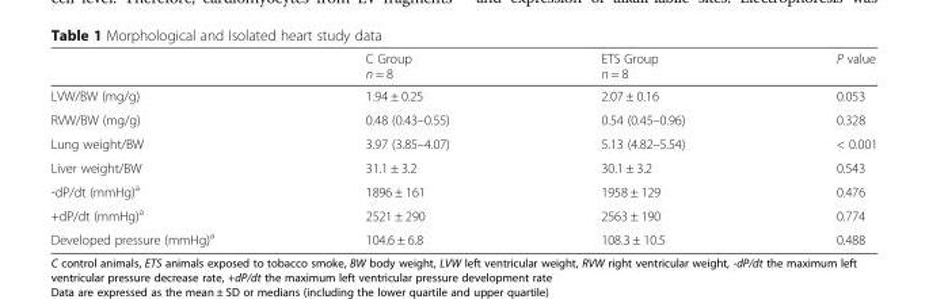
<table><thead><tr><td></td><td>C Group n = 8</td><td>ETS Group n = 8</td><td>P value</td></tr></thead><tbody><tr><td>LVW/BW (mg/g)</td><td>1.94 ± 0.25</td><td>2.07 ± 0.16</td><td>0.053</td></tr><tr><td>RVW/BW (mg/g)</td><td>0.48 (0.43–0.55)</td><td>0.54 (0.45–0.96)</td><td>0.328</td></tr><tr><td>Lung weight/BW</td><td>3.97 (3.85–4.07)</td><td>5.13 (4.82–5.54)</td><td>&lt; 0.001</td></tr><tr><td>Liver weight/BW</td><td>31.1 ± 3.2</td><td>30.1 ± 3.2</td><td>0.543</td></tr><tr><td>-dP/dt (mmHg)<sup>a</sup></td><td>1896 ± 161</td><td>1958 ± 129</td><td>0.476</td></tr><tr><td>+dP/dt (mmHg)<sup>a</sup></td><td>2521 ± 290</td><td>2563 ± 190</td><td>0.774</td></tr><tr><td>Developed pressure (mmHg)<sup>a</sup></td><td>104.6 ± 6.8</td><td>108.3 ± 10.5</td><td>0.488</td></tr></tbody></table>